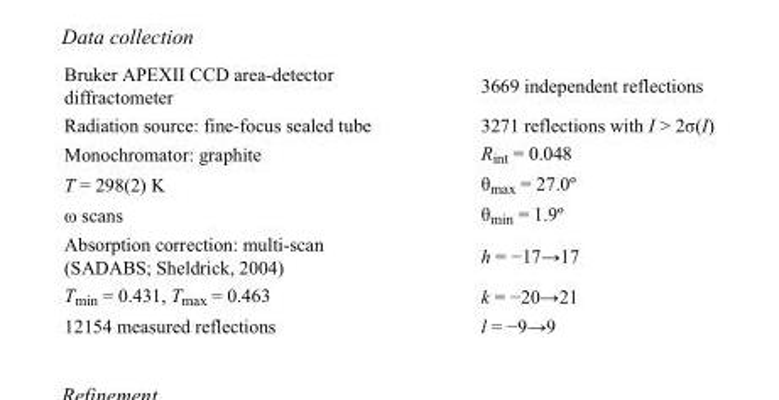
<table><tbody><tr><td>Bruker APEXII CCD area-detector diffractometer</td><td>3669 independent reflections</td></tr><tr><td>Radiation source: fine-focus sealed tube</td><td>3271 reflections with I &gt; 2σ(I)</td></tr><tr><td>Monochromator: graphite</td><td>R<sub>int</sub> = 0.048</td></tr><tr><td>T = 298(2) K</td><td>θ<sub>max</sub> = 27.0º</td></tr><tr><td>ω scans</td><td>θ<sub>min</sub> = 1.9º</td></tr><tr><td>Absorption correction: multi-scan (SADABS; Sheldrick, 2004)</td><td>h = −17→17</td></tr><tr><td>T<sub>min</sub> = 0.431, T<sub>max</sub> = 0.463</td><td>k = −20→21</td></tr><tr><td>12154 measured reflections</td><td>l = −9→9</td></tr></tbody></table>